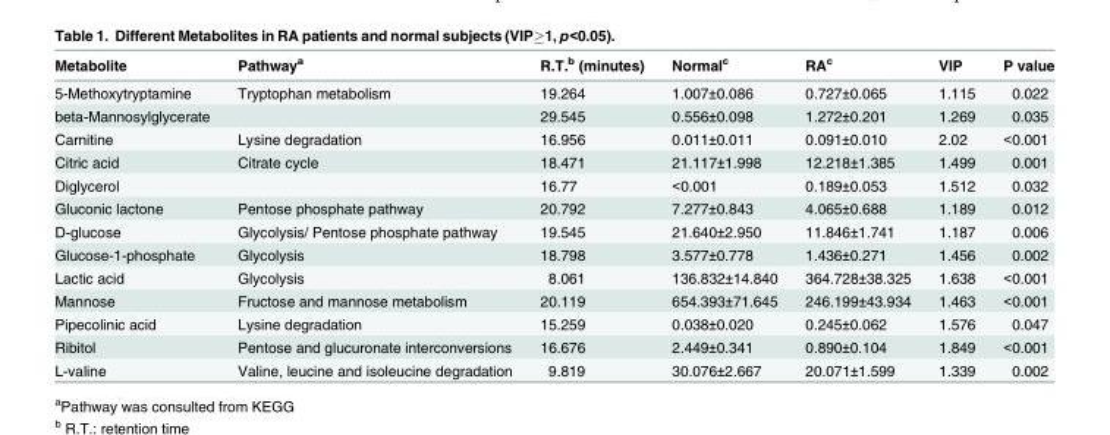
<table><thead><tr><td>Metabolite</td><td>Pathway<sup>a</sup></td><td>R.T.<sup>b</sup> (minutes)</td><td>Normal<sup>c</sup></td><td>RA<sup>c</sup></td><td>VIP</td><td>P value</td></tr></thead><tbody><tr><td>5-Methoxytryptamine</td><td>Tryptophan metabolism</td><td>19.264</td><td>1.007±0.086</td><td>0.727±0.065</td><td>1.115</td><td>0.022</td></tr><tr><td>beta-Mannosylglycerate</td><td></td><td>29.545</td><td>0.556±0.098</td><td>1.272±0.201</td><td>1.269</td><td>0.035</td></tr><tr><td>Carnitine</td><td>Lysine degradation</td><td>16.956</td><td>0.011±0.011</td><td>0.091±0.010</td><td>2.02</td><td>&lt;0.001</td></tr><tr><td>Citric acid</td><td>Citrate cycle</td><td>18.471</td><td>21.117±1.998</td><td>12.218±1.385</td><td>1.499</td><td>0.001</td></tr><tr><td>Diglycerol</td><td></td><td>16.77</td><td>&lt;0.001</td><td>0.189±0.053</td><td>1.512</td><td>0.032</td></tr><tr><td>Gluconic lactone</td><td>Pentose phosphate pathway</td><td>20.792</td><td>7.277±0.843</td><td>4.065±0.688</td><td>1.189</td><td>0.012</td></tr><tr><td>D-glucose</td><td>Glycolysis/ Pentose phosphate pathway</td><td>19.545</td><td>21.640±2.950</td><td>11.846±1.741</td><td>1.187</td><td>0.006</td></tr><tr><td>Glucose-1-phosphate</td><td>Glycolysis</td><td>18.798</td><td>3.577±0.778</td><td>1.436±0.271</td><td>1.456</td><td>0.002</td></tr><tr><td>Lactic acid</td><td>Glycolysis</td><td>8.061</td><td>136.832±14.840</td><td>364.728±38.325</td><td>1.638</td><td>&lt;0.001</td></tr><tr><td>Mannose</td><td>Fructose and mannose metabolism</td><td>20.119</td><td>654.393±71.645</td><td>246.199±43.934</td><td>1.463</td><td>&lt;0.001</td></tr><tr><td>Pipecolinic acid</td><td>Lysine degradation</td><td>15.259</td><td>0.038±0.020</td><td>0.245±0.062</td><td>1.576</td><td>0.047</td></tr><tr><td>Ribitol</td><td>Pentose and glucuronate interconversions</td><td>16.676</td><td>2.449±0.341</td><td>0.890±0.104</td><td>1.849</td><td>&lt;0.001</td></tr><tr><td>L-valine</td><td>Valine, leucine and isoleucine degradation</td><td>9.819</td><td>30.076±2.667</td><td>20.071±1.599</td><td>1.339</td><td>0.002</td></tr></tbody></table>